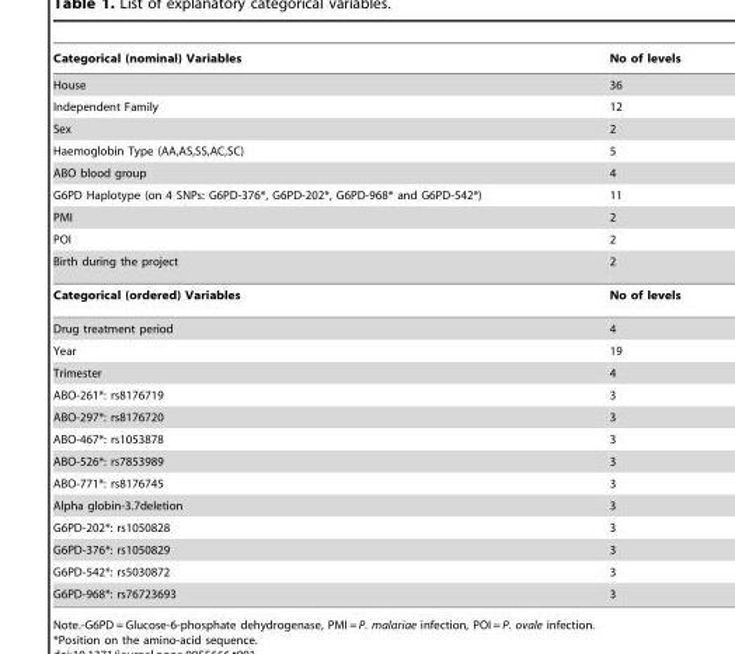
<table><thead><tr><td>Categorical (nominal) Variables</td><td>No of levels</td></tr></thead><tbody><tr><td>House</td><td>36</td></tr><tr><td>Independent Family</td><td>12</td></tr><tr><td>Sex</td><td>2</td></tr><tr><td>Haemoglobin Type (AA,AS,SS,AC,SC)</td><td>5</td></tr><tr><td>ABO blood group</td><td>4</td></tr><tr><td>G6PD Haplotype (on 4 SNPs: G6PD-376*, G6PD-202*, G6PD-968* and G6PD-542*)</td><td>11</td></tr><tr><td>PMI</td><td>2</td></tr><tr><td>POI</td><td>2</td></tr><tr><td>Birth during the project</td><td>2</td></tr><tr><td>Categorical (ordered) Variables</td><td>No of levels</td></tr><tr><td>Drug treatment period</td><td>4</td></tr><tr><td>Year</td><td>19</td></tr><tr><td>Trimester</td><td>4</td></tr><tr><td>ABO-261*: rs8176719</td><td>3</td></tr><tr><td>ABO-297*: rs8176720</td><td>3</td></tr><tr><td>ABO-467*: rs1053878</td><td>3</td></tr><tr><td>ABO-526*: rs7853989</td><td>3</td></tr><tr><td>ABO-771*: rs8176745</td><td>3</td></tr><tr><td>Alpha globin-3.7deletion</td><td>3</td></tr><tr><td>G6PD-202*: rs1050828</td><td>3</td></tr><tr><td>G6PD-376*: rs1050829</td><td>3</td></tr><tr><td>G6PD-542*: rs5030872</td><td>3</td></tr><tr><td>G6PD-968*: rs76723693</td><td>3</td></tr></tbody></table>